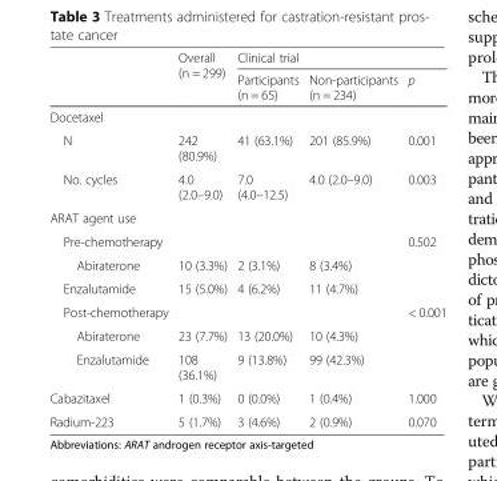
<table><thead><tr><td rowspan="2"></td><td rowspan="2">Overall (n = 299)</td><td colspan="3">Clinical trial</td></tr><tr><td>Participants (n = 65)</td><td>Non-participants (n = 234)</td><td>p</td></tr></thead><tbody><tr><td colspan="5">Docetaxel</td></tr><tr><td>N</td><td>242 (80.9%)</td><td>41 (63.1%)</td><td>201 (85.9%)</td><td>0.001</td></tr><tr><td>No. cycles</td><td>4.0 (2.0–9.0)</td><td>7.0 (4.0–12.5)</td><td>4.0 (2.0–9.0)</td><td>0.003</td></tr><tr><td colspan="5">ARAT agent use</td></tr><tr><td>Pre-chemotherapy</td><td></td><td></td><td></td><td>0.502</td></tr><tr><td>Abiraterone</td><td>10 (3.3%)</td><td>2 (3.1%)</td><td>8 (3.4%)</td><td rowspan="2"></td></tr><tr><td>Enzalutamide</td><td>15 (5.0%)</td><td>4 (6.2%)</td><td>11 (4.7%)</td></tr><tr><td>Post-chemotherapy</td><td></td><td></td><td></td><td>&lt; 0.001</td></tr><tr><td>Abiraterone</td><td>23 (7.7%)</td><td>13 (20.0%)</td><td>10 (4.3%)</td><td rowspan="2"></td></tr><tr><td>Enzalutamide</td><td>108 (36.1%)</td><td>9 (13.8%)</td><td>99 (42.3%)</td></tr><tr><td>Cabazitaxel</td><td>1 (0.3%)</td><td>0 (0.0%)</td><td>1 (0.4%)</td><td>1.000</td></tr><tr><td>Radium-223</td><td>5 (1.7%)</td><td>3 (4.6%)</td><td>2 (0.9%)</td><td>0.070</td></tr></tbody></table>